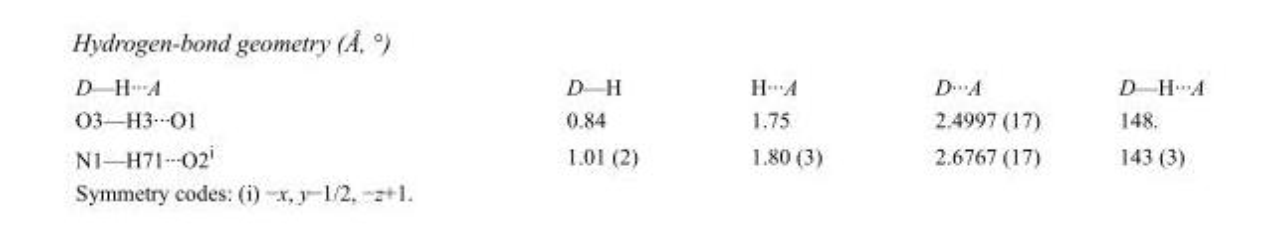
<table><tbody><tr><td>D—H···A</td><td>D—H</td><td>H···A</td><td>D···A</td><td>D—H···A</td></tr><tr><td>O3—H3···O1</td><td>0.84</td><td>1.75</td><td>2.4997 (17)</td><td>148.</td></tr><tr><td>N1—H71···O2<sup>i</sup></td><td>1.01 (2)</td><td>1.80 (3)</td><td>2.6767 (17)</td><td>143 (3)</td></tr></tbody></table>